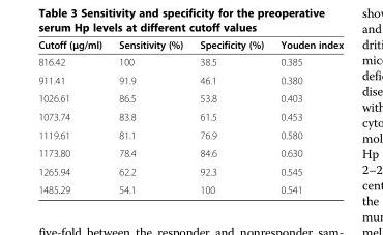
<table><thead><tr><td>Cutoff (μg/ml)</td><td>Sensitivity (%)</td><td>Specificity (%)</td><td>Youden index</td></tr></thead><tbody><tr><td>816.42</td><td>100</td><td>38.5</td><td>0.385</td></tr><tr><td>911.41</td><td>91.9</td><td>46.1</td><td>0.380</td></tr><tr><td>1026.61</td><td>86.5</td><td>53.8</td><td>0.403</td></tr><tr><td>1073.74</td><td>83.8</td><td>61.5</td><td>0.453</td></tr><tr><td>1119.61</td><td>81.1</td><td>76.9</td><td>0.580</td></tr><tr><td>1173.80</td><td>78.4</td><td>84.6</td><td>0.630</td></tr><tr><td>1265.94</td><td>62.2</td><td>92.3</td><td>0.545</td></tr><tr><td>1485.29</td><td>54.1</td><td>100</td><td>0.541</td></tr></tbody></table>